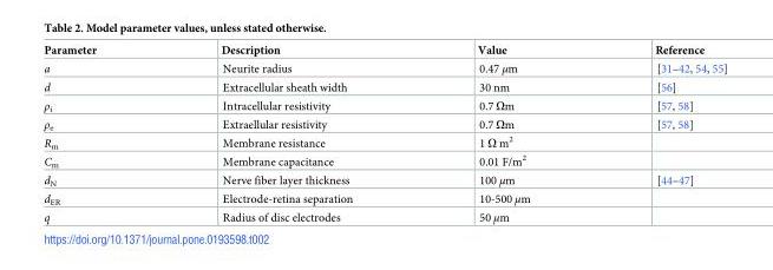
<table><thead><tr><td>Parameter</td><td>Description</td><td>Value</td><td>Reference</td></tr></thead><tbody><tr><td>a</td><td>Neurite radius</td><td>0.47 μm</td><td>[31–42, 54, 55]</td></tr><tr><td>d</td><td>Extracellular sheath width</td><td>30 nm</td><td>[56]</td></tr><tr><td>ρ<sub>i</sub></td><td>Intracellular resistivity</td><td>0.7 Ωm</td><td>[57, 58]</td></tr><tr><td>ρ<sub>e</sub></td><td>Extraellular resistivity</td><td>0.7 Ωm</td><td>[57, 58]</td></tr><tr><td>R<sub>m</sub></td><td>Membrane resistance</td><td>1 Ω m<sup>2</sup></td><td></td></tr><tr><td>C<sub>m</sub></td><td>Membrane capacitance</td><td>0.01 F/m<sup>2</sup></td><td></td></tr><tr><td>d<sub>N</sub></td><td>Nerve fiber layer thickness</td><td>100 μm</td><td>[44–47]</td></tr><tr><td>d<sub>ER</sub></td><td>Electrode-retina separation</td><td>10-500 μm</td><td></td></tr><tr><td>q</td><td>Radius of disc electrodes</td><td>50 μm</td><td></td></tr></tbody></table>